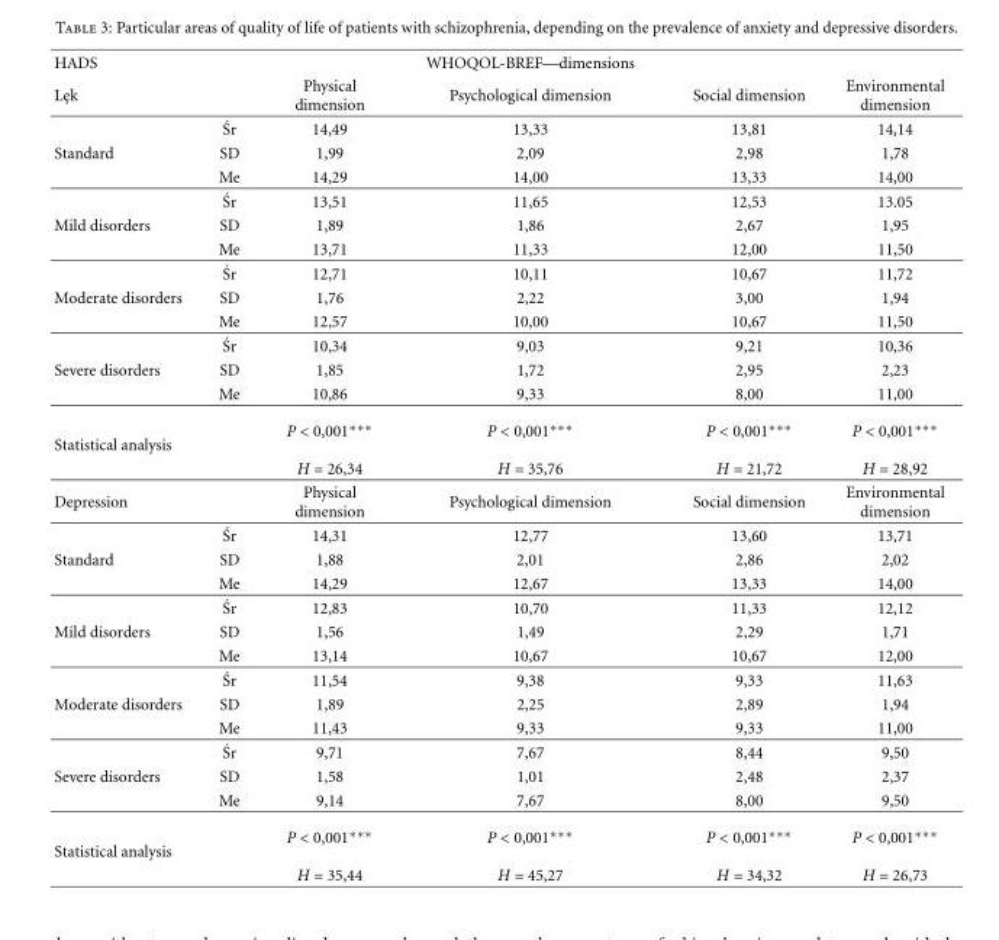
<table><thead><tr><td rowspan="2">HADS Le¸k</td><td rowspan="2"></td><td rowspan="2">Physical dimension</td><td rowspan="2">WHOQOL-BREF—dimensions Psychological dimension</td><td rowspan="2">Social dimension</td><td rowspan="2">Environmental dimension</td></tr><tr></tr></thead><tbody><tr><td></td><td>´Sr</td><td>14,49</td><td>13,33</td><td>13,81</td><td>14,14</td></tr><tr><td rowspan="3">Standard</td><td>SD</td><td>1,99</td><td>2,09</td><td>2,98</td><td>1,78</td></tr><tr><td>Me</td><td>14,29</td><td>14,00</td><td>13,33</td><td>14,00</td></tr><tr><td>´Sr</td><td>13,51</td><td>11,65</td><td>12,53</td><td>13.05</td></tr><tr><td rowspan="3">Mild disorders</td><td>SD</td><td>1,89</td><td>1,86</td><td>2,67</td><td>1,95</td></tr><tr><td>Me</td><td>13,71</td><td>11,33</td><td>12,00</td><td>11,50</td></tr><tr><td>´Sr</td><td>12,71</td><td>10,11</td><td>10,67</td><td>11,72</td></tr><tr><td rowspan="3">Moderate disorders</td><td>SD</td><td>1,76</td><td>2,22</td><td>3,00</td><td>1,94</td></tr><tr><td>Me</td><td>12,57</td><td>10,00</td><td>10,67</td><td>11,50</td></tr><tr><td>´Sr</td><td>10,34</td><td>9,03</td><td>9,21</td><td>10,36</td></tr><tr><td rowspan="2">Severe disorders</td><td>SD</td><td>1,85</td><td>1,72</td><td>2,95</td><td>2,23</td></tr><tr><td>Me</td><td>10,86</td><td>9,33</td><td>8,00</td><td>11,00</td></tr><tr><td rowspan="2">Statistical analysis</td><td></td><td>P &lt; 0,001∗∗∗</td><td>P &lt; 0,001∗∗∗</td><td>P &lt; 0,001∗∗∗</td><td>P &lt; 0,001∗∗∗</td></tr><tr><td></td><td>H = 26,34</td><td>H = 35,76</td><td>H = 21,72</td><td>H = 28,92</td></tr><tr><td rowspan="2">Depression</td><td></td><td>Physical dimension</td><td>Psychological dimension</td><td>Social dimension</td><td>Environmental dimension</td></tr><tr><td>´Sr</td><td>14,31</td><td>12,77</td><td>13,60</td><td>13,71</td></tr><tr><td rowspan="3">Standard</td><td>SD</td><td>1,88</td><td>2,01</td><td>2,86</td><td>2,02</td></tr><tr><td>Me</td><td>14,29</td><td>12,67</td><td>13,33</td><td>14,00</td></tr><tr><td>´Sr</td><td>12,83</td><td>10,70</td><td>11,33</td><td>12,12</td></tr><tr><td rowspan="3">Mild disorders</td><td>SD</td><td>1,56</td><td>1,49</td><td>2,29</td><td>1,71</td></tr><tr><td>Me</td><td>13,14</td><td>10,67</td><td>10,67</td><td>12,00</td></tr><tr><td>´Sr</td><td>11,54</td><td>9,38</td><td>9,33</td><td>11,63</td></tr><tr><td rowspan="3">Moderate disorders</td><td>SD</td><td>1,89</td><td>2,25</td><td>2,89</td><td>1,94</td></tr><tr><td>Me</td><td>11,43</td><td>9,33</td><td>9,33</td><td>11,00</td></tr><tr><td>´Sr</td><td>9,71</td><td>7,67</td><td>8,44</td><td>9,50</td></tr><tr><td rowspan="2">Severe disorders</td><td>SD</td><td>1,58</td><td>1,01</td><td>2,48</td><td>2,37</td></tr><tr><td>Me</td><td>9,14</td><td>7,67</td><td>8,00</td><td>9,50</td></tr><tr><td rowspan="2">Statistical analysis</td><td></td><td>P &lt; 0,001∗∗∗</td><td>P &lt; 0,001∗∗∗</td><td>P &lt; 0,001∗∗∗</td><td>P &lt; 0,001∗∗∗</td></tr><tr><td></td><td>H = 35,44</td><td>H = 45,27</td><td>H = 34,32</td><td>H = 26,73</td></tr></tbody></table>